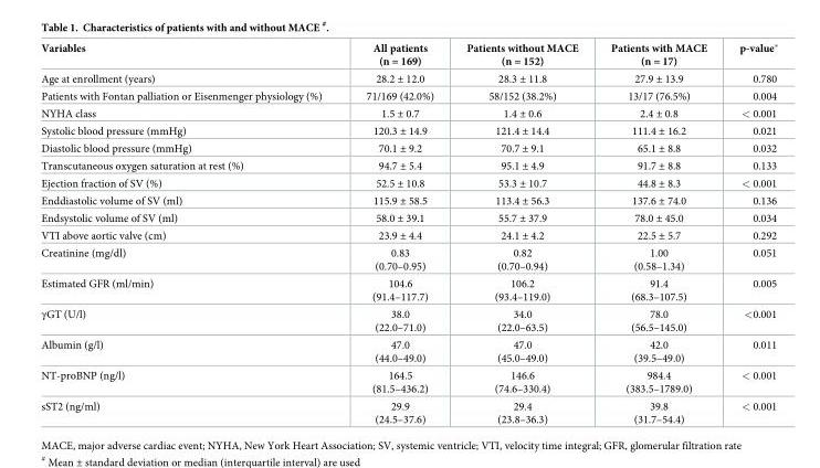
<table><thead><tr><td>Variables</td><td>All patients (n = 169)</td><td>Patients without MACE (n = 152)</td><td>Patients with MACE (n = 17)</td><td>p-value*</td></tr></thead><tbody><tr><td>Age at enrollment (years)</td><td>28.2 ± 12.0</td><td>28.3 ± 11.8</td><td>27.9 ± 13.9</td><td>0.780</td></tr><tr><td>Patients with Fontan palliation or Eisenmenger physiology (%)</td><td>71/169 (42.0%)</td><td>58/152 (38.2%)</td><td>13/17 (76.5%)</td><td>0.004</td></tr><tr><td>NYHA class</td><td>1.5 ± 0.7</td><td>1.4 ± 0.6</td><td>2.4 ± 0.8</td><td>&lt; 0.001</td></tr><tr><td>Systolic blood pressure (mmHg)</td><td>120.3 ± 14.9</td><td>121.4 ± 14.4</td><td>111.4 ± 16.2</td><td>0.021</td></tr><tr><td>Diastolic blood pressure (mmHg)</td><td>70.1 ± 9.2</td><td>70.7 ± 9.1</td><td>65.1 ± 8.8</td><td>0.032</td></tr><tr><td>Transcutaneous oxygen saturation at rest (%)</td><td>94.7 ± 5.4</td><td>95.1 ± 4.9</td><td>91.7 ± 8.8</td><td>0.133</td></tr><tr><td>Ejection fraction of SV (%)</td><td>52.5 ± 10.8</td><td>53.3 ± 10.7</td><td>44.8 ± 8.3</td><td>&lt; 0.001</td></tr><tr><td>Enddiastolic volume of SV (ml)</td><td>115.9 ± 58.5</td><td>113.4 ± 56.3</td><td>137.6 ± 74.0</td><td>0.136</td></tr><tr><td>Endsystolic volume of SV (ml)</td><td>58.0 ± 39.1</td><td>55.7 ± 37.9</td><td>78.0 ± 45.0</td><td>0.034</td></tr><tr><td>VTI above aortic valve (cm)</td><td>23.9 ± 4.4</td><td>24.1 ± 4.2</td><td>22.5 ± 5.7</td><td>0.292</td></tr><tr><td>Creatinine (mg/dl)</td><td>0.83 (0.70–0.95)</td><td>0.82 (0.70–0.94)</td><td>1.00 (0.58–1.34)</td><td>0.051</td></tr><tr><td>Estimated GFR (ml/min)</td><td>104.6 (91.4–117.7)</td><td>106.2 (93.4–119.0)</td><td>91.4 (68.3–107.5)</td><td>0.005</td></tr><tr><td>γGT (U/l)</td><td>38.0 (22.0–71.0)</td><td>34.0 (22.0–63.5)</td><td>78.0 (56.5–145.0)</td><td>&lt;0.001</td></tr><tr><td>Albumin (g/l)</td><td>47.0 (44.0–49.0)</td><td>47.0 (45.0–49.0)</td><td>42.0 (39.5–49.0)</td><td>0.011</td></tr><tr><td>NT-proBNP (ng/l)</td><td>164.5 (81.5–436.2)</td><td>146.6 (74.6–330.4)</td><td>984.4 (383.5–1789.0)</td><td>&lt; 0.001</td></tr><tr><td>sST2 (ng/ml)</td><td>29.9 (24.5–37.6)</td><td>29.4 (23.8–36.3)</td><td>39.8 (31.7–54.4)</td><td>&lt; 0.001</td></tr></tbody></table>